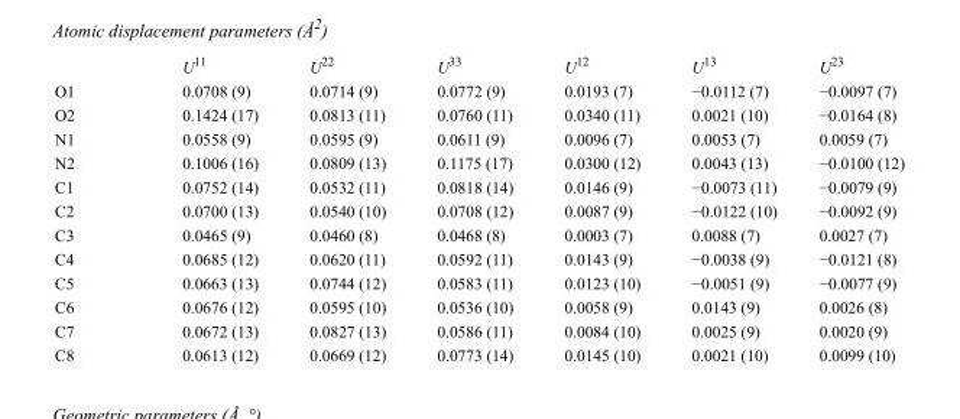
<table><thead><tr><td></td><td>U<sup>11</sup></td><td>U<sup>22</sup></td><td>U<sup>33</sup></td><td>U<sup>12</sup></td><td>U<sup>13</sup></td><td>U<sup>23</sup></td></tr></thead><tbody><tr><td>O1</td><td>0.0708 (9)</td><td>0.0714 (9)</td><td>0.0772 (9)</td><td>0.0193 (7)</td><td>−0.0112 (7)</td><td>−0.0097 (7)</td></tr><tr><td>O2</td><td>0.1424 (17)</td><td>0.0813 (11)</td><td>0.0760 (11)</td><td>0.0340 (11)</td><td>0.0021 (10)</td><td>−0.0164 (8)</td></tr><tr><td>N1</td><td>0.0558 (9)</td><td>0.0595 (9)</td><td>0.0611 (9)</td><td>0.0096 (7)</td><td>0.0053 (7)</td><td>0.0059 (7)</td></tr><tr><td>N2</td><td>0.1006 (16)</td><td>0.0809 (13)</td><td>0.1175 (17)</td><td>0.0300 (12)</td><td>0.0043 (13)</td><td>−0.0100 (12)</td></tr><tr><td>C1</td><td>0.0752 (14)</td><td>0.0532 (11)</td><td>0.0818 (14)</td><td>0.0146 (9)</td><td>−0.0073 (11)</td><td>−0.0079 (9)</td></tr><tr><td>C2</td><td>0.0700 (13)</td><td>0.0540 (10)</td><td>0.0708 (12)</td><td>0.0087 (9)</td><td>−0.0122 (10)</td><td>−0.0092 (9)</td></tr><tr><td>C3</td><td>0.0465 (9)</td><td>0.0460 (8)</td><td>0.0468 (8)</td><td>0.0003 (7)</td><td>0.0088 (7)</td><td>0.0027 (7)</td></tr><tr><td>C4</td><td>0.0685 (12)</td><td>0.0620 (11)</td><td>0.0592 (11)</td><td>0.0143 (9)</td><td>−0.0038 (9)</td><td>−0.0121 (8)</td></tr><tr><td>C5</td><td>0.0663 (13)</td><td>0.0744 (12)</td><td>0.0583 (11)</td><td>0.0123 (10)</td><td>−0.0051 (9)</td><td>−0.0077 (9)</td></tr><tr><td>C6</td><td>0.0676 (12)</td><td>0.0595 (10)</td><td>0.0536 (10)</td><td>0.0058 (9)</td><td>0.0143 (9)</td><td>0.0026 (8)</td></tr><tr><td>C7</td><td>0.0672 (13)</td><td>0.0827 (13)</td><td>0.0586 (11)</td><td>0.0084 (10)</td><td>0.0025 (9)</td><td>0.0020 (9)</td></tr><tr><td>C8</td><td>0.0613 (12)</td><td>0.0669 (12)</td><td>0.0773 (14)</td><td>0.0145 (10)</td><td>0.0021 (10)</td><td>0.0099 (10)</td></tr></tbody></table>